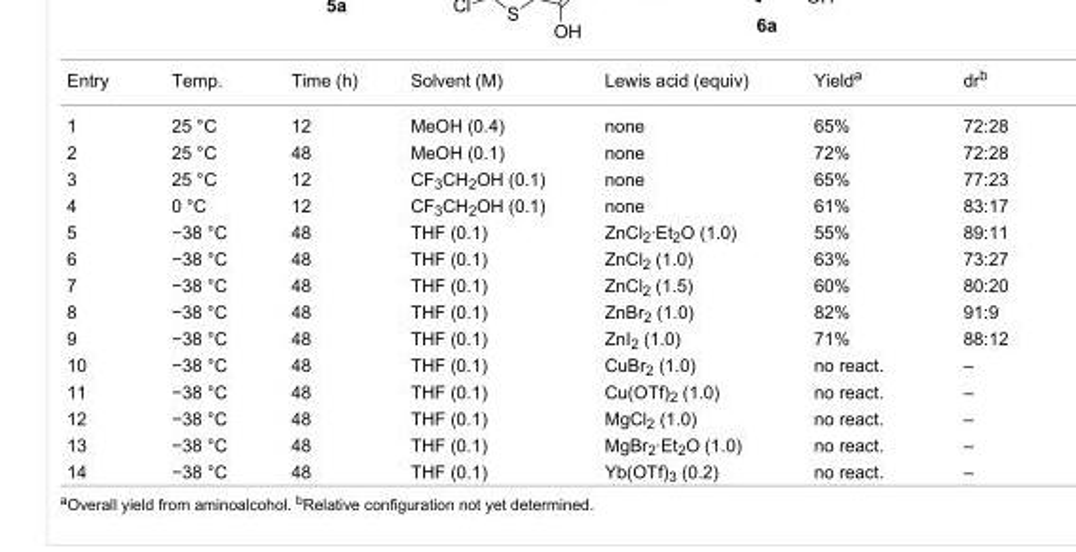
<table><tbody><tr><td>Entry</td><td>Temp.</td><td>Time (h)</td><td>Solvent (M)</td><td>Lewis acid (equiv)</td><td>Yield<sup>a</sup></td><td>dr<sup>b</sup></td></tr><tr><td>1</td><td>25 °C</td><td>12</td><td>MeOH (0.4)</td><td>none</td><td>65%</td><td>72:28</td></tr><tr><td>2</td><td>25 °C</td><td>48</td><td>MeOH (0.1)</td><td>none</td><td>72%</td><td>72:28</td></tr><tr><td>3</td><td>25 °C</td><td>12</td><td>CF<sub>3</sub>CH<sub>2</sub>OH (0.1)</td><td>none</td><td>65%</td><td>77:23</td></tr><tr><td>4</td><td>0 °C</td><td>12</td><td>CF<sub>3</sub>CH<sub>2</sub>OH (0.1)</td><td>none</td><td>61%</td><td>83:17</td></tr><tr><td>5</td><td>−38 °C</td><td>48</td><td>THF (0.1)</td><td>ZnCl<sub>2</sub>·Et<sub>2</sub>O (1.0)</td><td>55%</td><td>89:11</td></tr><tr><td>6</td><td>−38 °C</td><td>48</td><td>THF (0.1)</td><td>ZnCl<sub>2</sub> (1.0)</td><td>63%</td><td>73:27</td></tr><tr><td>7</td><td>−38 °C</td><td>48</td><td>THF (0.1)</td><td>ZnCl<sub>2</sub> (1.5)</td><td>60%</td><td>80:20</td></tr><tr><td>8</td><td>−38 °C</td><td>48</td><td>THF (0.1)</td><td>ZnBr<sub>2</sub> (1.0)</td><td>82%</td><td>91:9</td></tr><tr><td>9</td><td>−38 °C</td><td>48</td><td>THF (0.1)</td><td>ZnI<sub>2</sub> (1.0)</td><td>71%</td><td>88:12</td></tr><tr><td>10</td><td>−38 °C</td><td>48</td><td>THF (0.1)</td><td>CuBr<sub>2</sub> (1.0)</td><td>no react.</td><td>–</td></tr><tr><td>11</td><td>−38 °C</td><td>48</td><td>THF (0.1)</td><td>Cu(OTf)<sub>2</sub> (1.0)</td><td>no react.</td><td>–</td></tr><tr><td>12</td><td>−38 °C</td><td>48</td><td>THF (0.1)</td><td>MgCl<sub>2</sub> (1.0)</td><td>no react.</td><td>–</td></tr><tr><td>13</td><td>−38 °C</td><td>48</td><td>THF (0.1)</td><td>MgBr<sub>2</sub>·Et<sub>2</sub>O (1.0)</td><td>no react.</td><td>–</td></tr><tr><td>14</td><td>−38 °C</td><td>48</td><td>THF (0.1)</td><td>Yb(OTf)<sub>3</sub> (0.2)</td><td>no react.</td><td>–</td></tr></tbody></table>